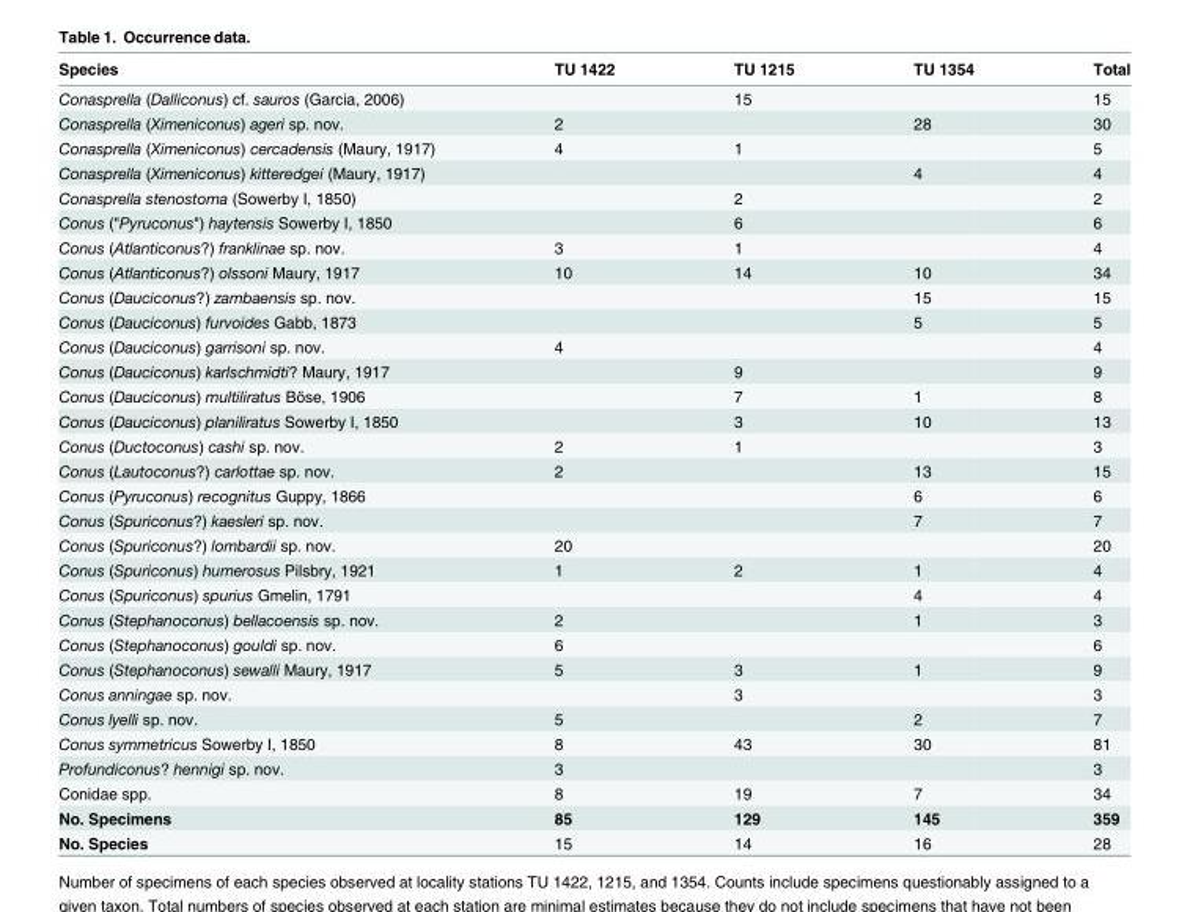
<table><thead><tr><td>Species</td><td>TU 1422</td><td>TU 1215</td><td>TU 1354</td><td>Total</td></tr></thead><tbody><tr><td>Conasprella (Dalliconus) cf. sauros (Garcia, 2006)</td><td></td><td>15</td><td></td><td>15</td></tr><tr><td>Conasprella (Ximeniconus) ageri sp. nov.</td><td>2</td><td></td><td>28</td><td>30</td></tr><tr><td>Conasprella (Ximeniconus) cercadensis (Maury, 1917)</td><td>4</td><td>1</td><td></td><td>5</td></tr><tr><td>Conasprella (Ximeniconus) kitteredgei (Maury, 1917)</td><td></td><td></td><td>4</td><td>4</td></tr><tr><td>Conasprella stenostoma (Sowerby I, 1850)</td><td></td><td>2</td><td></td><td>2</td></tr><tr><td>Conus (&quot;Pyruconus&quot;) haytensis Sowerby I, 1850</td><td></td><td>6</td><td></td><td>6</td></tr><tr><td>Conus (Atlanticonus?) franklinae sp. nov.</td><td>3</td><td>1</td><td></td><td>4</td></tr><tr><td>Conus (Atlanticonus?) olssoni Maury, 1917</td><td>10</td><td>14</td><td>10</td><td>34</td></tr><tr><td>Conus (Dauciconus?) zambaensis sp. nov.</td><td></td><td></td><td>15</td><td>15</td></tr><tr><td>Conus (Dauciconus) furvoides Gabb, 1873</td><td></td><td></td><td>5</td><td>5</td></tr><tr><td>Conus (Dauciconus) garrisoni sp. nov.</td><td>4</td><td></td><td></td><td>4</td></tr><tr><td>Conus (Dauciconus) karlschmidti? Maury, 1917</td><td></td><td>9</td><td></td><td>9</td></tr><tr><td>Conus (Dauciconus) multiliratus Böse, 1906</td><td></td><td>7</td><td>1</td><td>8</td></tr><tr><td>Conus (Dauciconus) planiliratus Sowerby I, 1850</td><td></td><td>3</td><td>10</td><td>13</td></tr><tr><td>Conus (Ductoconus) cashi sp. nov.</td><td>2</td><td>1</td><td></td><td>3</td></tr><tr><td>Conus (Lautoconus?) carlottae sp. nov.</td><td>2</td><td></td><td>13</td><td>15</td></tr><tr><td>Conus (Pyruconus) recognitus Guppy, 1866</td><td></td><td></td><td>6</td><td>6</td></tr><tr><td>Conus (Spuriconus?) kaesleri sp. nov.</td><td></td><td></td><td>7</td><td>7</td></tr><tr><td>Conus (Spuriconus?) lombardii sp. nov.</td><td>20</td><td></td><td></td><td>20</td></tr><tr><td>Conus (Spuriconus) humerosus Pilsbry, 1921</td><td>1</td><td>2</td><td>1</td><td>4</td></tr><tr><td>Conus (Spuriconus) spurius Gmelin, 1791</td><td></td><td></td><td>4</td><td>4</td></tr><tr><td>Conus (Stephanoconus) bellacoensis sp. nov.</td><td>2</td><td></td><td>1</td><td>3</td></tr><tr><td>Conus (Stephanoconus) gouldi sp. nov.</td><td>6</td><td></td><td></td><td>6</td></tr><tr><td>Conus (Stephanoconus) sewalli Maury, 1917</td><td>5</td><td>3</td><td>1</td><td>9</td></tr><tr><td>Conus anningae sp. nov.</td><td></td><td>3</td><td></td><td>3</td></tr><tr><td>Conus lyelli sp. nov.</td><td>5</td><td></td><td>2</td><td>7</td></tr><tr><td>Conus symmetricus Sowerby I, 1850</td><td>8</td><td>43</td><td>30</td><td>81</td></tr><tr><td>Profundiconus? hennigi sp. nov.</td><td>3</td><td></td><td></td><td>3</td></tr><tr><td>Conidae spp.</td><td>8</td><td>19</td><td>7</td><td>34</td></tr><tr><td>No. Specimens</td><td>85</td><td>129</td><td>145</td><td>359</td></tr><tr><td>No. Species</td><td>15</td><td>14</td><td>16</td><td>28</td></tr></tbody></table>